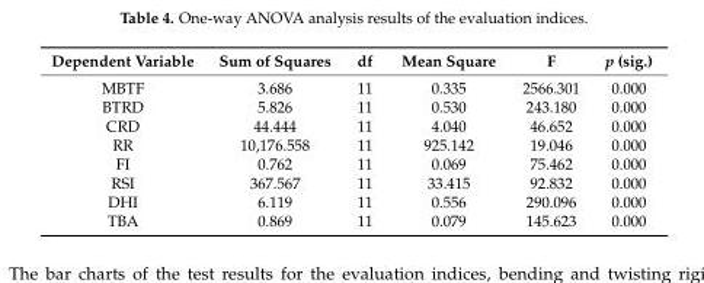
<table><thead><tr><td>Dependent Variable</td><td>Sum of Squares</td><td>df</td><td>Mean Square</td><td>F</td><td>p (sig.)</td></tr></thead><tbody><tr><td>MBTF</td><td>3.686</td><td>11</td><td>0.335</td><td>2566.301</td><td>0.000</td></tr><tr><td>BTRD</td><td>5.826</td><td>11</td><td>0.530</td><td>243.180</td><td>0.000</td></tr><tr><td>CRD</td><td>44.444</td><td>11</td><td>4.040</td><td>46.652</td><td>0.000</td></tr><tr><td>RR</td><td>10,176.558</td><td>11</td><td>925.142</td><td>19.046</td><td>0.000</td></tr><tr><td>FI</td><td>0.762</td><td>11</td><td>0.069</td><td>75.462</td><td>0.000</td></tr><tr><td>RSI</td><td>367.567</td><td>11</td><td>33.415</td><td>92.832</td><td>0.000</td></tr><tr><td>DHI</td><td>6.119</td><td>11</td><td>0.556</td><td>290.096</td><td>0.000</td></tr><tr><td>TBA</td><td>0.869</td><td>11</td><td>0.079</td><td>145.623</td><td>0.000</td></tr></tbody></table>